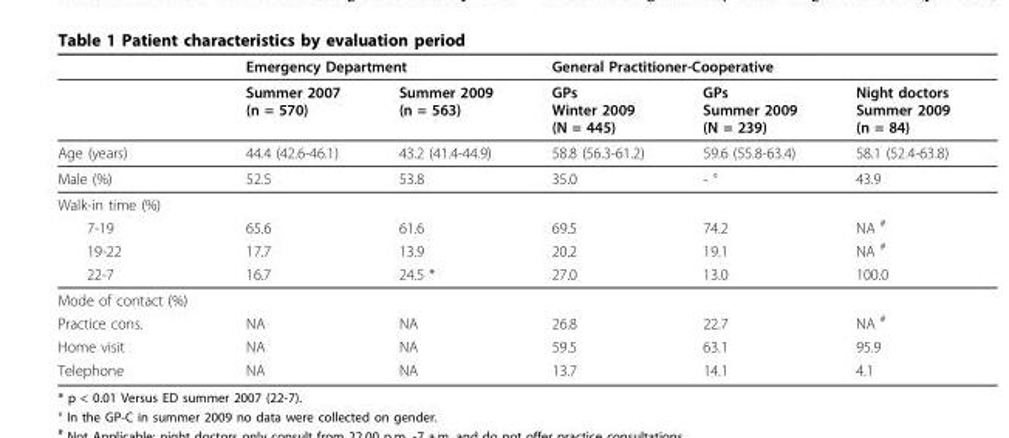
<table><thead><tr><td rowspan="2"></td><td colspan="2">Emergency Department</td><td colspan="3">General Practitioner-Cooperative</td></tr><tr><td>Summer 2007 (n = 570)</td><td>Summer 2009 (n = 563)</td><td>GPs Winter 2009 (N = 445)</td><td>GPs Summer 2009 (N = 239)</td><td>Night doctors Summer 2009 (n = 84)</td></tr></thead><tbody><tr><td>Age (years)</td><td>44.4 (42.6-46.1)</td><td>43.2 (41.4-44.9)</td><td>58.8 (56.3-61.2)</td><td>59.6 (55.8-63.4)</td><td>58.1 (52.4-63.8)</td></tr><tr><td>Male (%)</td><td>52.5</td><td>53.8</td><td>35.0</td><td>- °</td><td>43.9</td></tr><tr><td colspan="6">Walk-in time (%)</td></tr><tr><td>7-19</td><td>65.6</td><td>61.6</td><td>69.5</td><td>74.2</td><td>NA <sup>#</sup></td></tr><tr><td>19-22</td><td>17.7</td><td>13.9</td><td>20.2</td><td>19.1</td><td>NA <sup>#</sup></td></tr><tr><td>22-7</td><td>16.7</td><td>24.5 *</td><td>27.0</td><td>13.0</td><td>100.0</td></tr><tr><td colspan="6">Mode of contact (%)</td></tr><tr><td>Practice cons.</td><td>NA</td><td>NA</td><td>26.8</td><td>22.7</td><td>NA <sup>#</sup></td></tr><tr><td>Home visit</td><td>NA</td><td>NA</td><td>59.5</td><td>63.1</td><td>95.9</td></tr><tr><td>Telephone</td><td>NA</td><td>NA</td><td>13.7</td><td>14.1</td><td>4.1</td></tr></tbody></table>